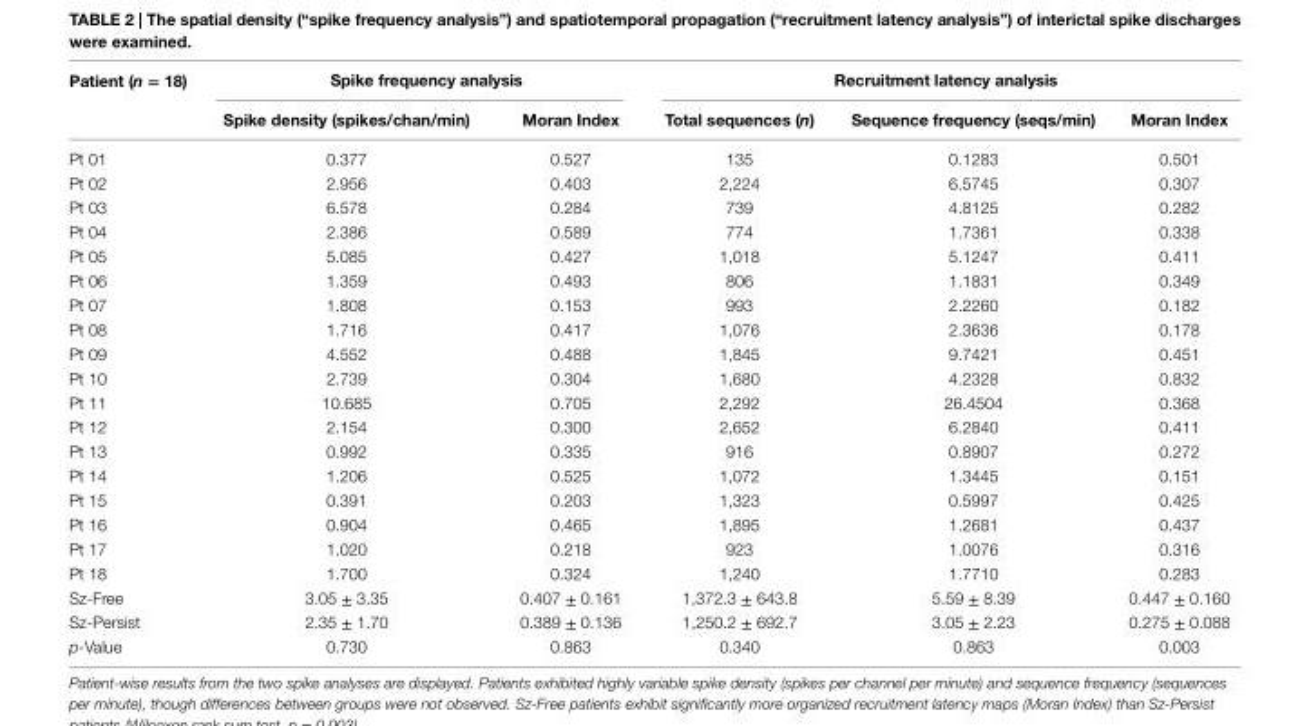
<table><thead><tr><td rowspan="2">Patient (n = 18)</td><td colspan="2">spike frequency analysis</td><td colspan="3">Recruitment latency analysis</td></tr><tr><td>spike density (spikes/chan/min)</td><td>Moran Index</td><td>total sequences (n)</td><td>sequence frequency (seqs/min)</td><td>Moran Index</td></tr></thead><tbody><tr><td>Pt 01</td><td>0.377</td><td>0.527</td><td>135</td><td>0.1283</td><td>0.501</td></tr><tr><td>Pt 02</td><td>2.956</td><td>0.403</td><td>2,224</td><td>6.5745</td><td>0.307</td></tr><tr><td>Pt 03</td><td>6.578</td><td>0.284</td><td>739</td><td>4.8125</td><td>0.282</td></tr><tr><td>Pt 04</td><td>2.386</td><td>0.589</td><td>774</td><td>1.7361</td><td>0.338</td></tr><tr><td>Pt 05</td><td>5.085</td><td>0.427</td><td>1,018</td><td>5.1247</td><td>0.411</td></tr><tr><td>Pt 06</td><td>1.359</td><td>0.493</td><td>806</td><td>1.1831</td><td>0.349</td></tr><tr><td>Pt 07</td><td>1.808</td><td>0.153</td><td>993</td><td>2.2260</td><td>0.182</td></tr><tr><td>Pt 08</td><td>1.716</td><td>0.417</td><td>1,076</td><td>2.3636</td><td>0.178</td></tr><tr><td>Pt 09</td><td>4.552</td><td>0.488</td><td>1,845</td><td>9.7421</td><td>0.451</td></tr><tr><td>Pt 10</td><td>2.739</td><td>0.304</td><td>1,680</td><td>4.2328</td><td>0.832</td></tr><tr><td>Pt 11</td><td>10.685</td><td>0.705</td><td>2,292</td><td>26.4504</td><td>0.368</td></tr><tr><td>Pt 12</td><td>2.154</td><td>0.300</td><td>2,652</td><td>6.2840</td><td>0.411</td></tr><tr><td>Pt 13</td><td>0.992</td><td>0.335</td><td>916</td><td>0.8907</td><td>0.272</td></tr><tr><td>Pt 14</td><td>1.206</td><td>0.525</td><td>1,072</td><td>1.3445</td><td>0.151</td></tr><tr><td>Pt 15</td><td>0.391</td><td>0.203</td><td>1,323</td><td>0.5997</td><td>0.425</td></tr><tr><td>Pt 16</td><td>0.904</td><td>0.465</td><td>1,895</td><td>1.2681</td><td>0.437</td></tr><tr><td>Pt 17</td><td>1.020</td><td>0.218</td><td>923</td><td>1.0076</td><td>0.316</td></tr><tr><td>Pt 18</td><td>1.700</td><td>0.324</td><td>1,240</td><td>1.7710</td><td>0.283</td></tr><tr><td>Sz-Free</td><td>3.05 ± 3.35</td><td>0.407 ± 0.161</td><td>1,372.3 ± 643.8</td><td>5.59 ± 8.39</td><td>0.447 ± 0.160</td></tr><tr><td>Sz-Persist</td><td>2.35 ± 1.70</td><td>0.389 ± 0.136</td><td>1,250.2 ± 692.7</td><td>3.05 ± 2.23</td><td>0.275 ± 0.088</td></tr><tr><td>p-Value</td><td>0.730</td><td>0.863</td><td>0.340</td><td>0.863</td><td>0.003</td></tr></tbody></table>